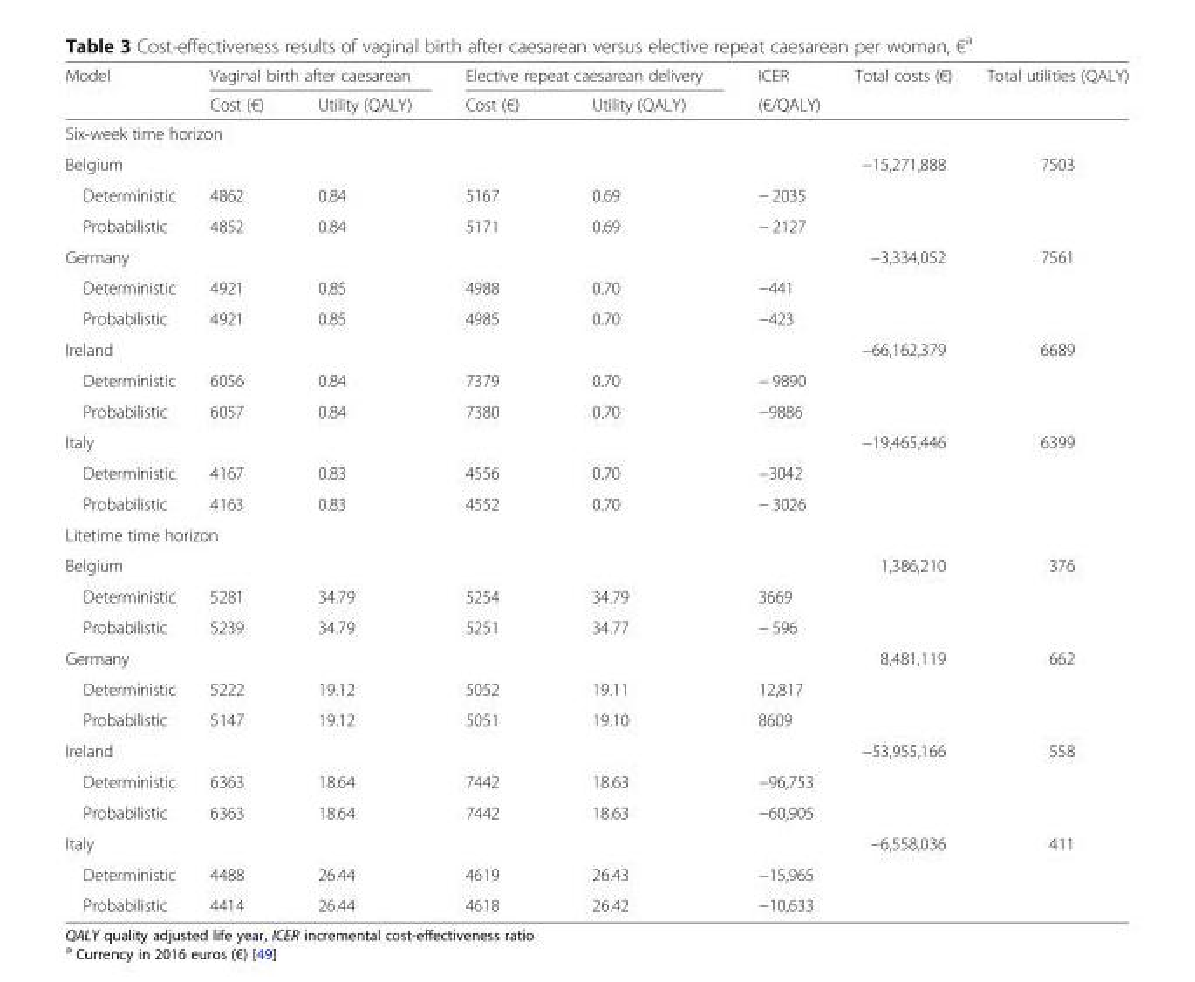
<table><thead><tr><td rowspan="2">Model</td><td colspan="2">Vaginal birth after caesarean</td><td colspan="2">Elective repeat caesarean delivery</td><td rowspan="2">ICER (€/QALY)</td><td rowspan="2">Total costs (€)</td><td rowspan="2">Total utilities (QALY)</td></tr><tr><td>Cost (€)</td><td>Utility (QALY)</td><td>Cost (€)</td><td>Utility (QALY)</td></tr></thead><tbody><tr><td colspan="8">Six-week time horizon</td></tr><tr><td>Belgium</td><td></td><td></td><td></td><td></td><td></td><td>−15,271,888</td><td>7503</td></tr><tr><td>Deterministic</td><td>4862</td><td>0.84</td><td>5167</td><td>0.69</td><td>− 2035</td><td></td><td></td></tr><tr><td>Probabilistic</td><td>4852</td><td>0.84</td><td>5171</td><td>0.69</td><td>− 2127</td><td></td><td></td></tr><tr><td>Germany</td><td></td><td></td><td></td><td></td><td></td><td>−3,334,052</td><td>7561</td></tr><tr><td>Deterministic</td><td>4921</td><td>0.85</td><td>4988</td><td>0.70</td><td>−441</td><td></td><td></td></tr><tr><td>Probabilistic</td><td>4921</td><td>0.85</td><td>4985</td><td>0.70</td><td>−423</td><td></td><td></td></tr><tr><td>Ireland</td><td></td><td></td><td></td><td></td><td></td><td>−66,162,379</td><td>6689</td></tr><tr><td>Deterministic</td><td>6056</td><td>0.84</td><td>7379</td><td>0.70</td><td>− 9890</td><td></td><td></td></tr><tr><td>Probabilistic</td><td>6057</td><td>0.84</td><td>7380</td><td>0.70</td><td>−9886</td><td></td><td></td></tr><tr><td>Italy</td><td></td><td></td><td></td><td></td><td></td><td>−19,465,446</td><td>6399</td></tr><tr><td>Deterministic</td><td>4167</td><td>0.83</td><td>4556</td><td>0.70</td><td>−3042</td><td></td><td></td></tr><tr><td>Probabilistic</td><td>4163</td><td>0.83</td><td>4552</td><td>0.70</td><td>− 3026</td><td></td><td></td></tr><tr><td colspan="8">Litetime time horizon</td></tr><tr><td>Belgium</td><td></td><td></td><td></td><td></td><td></td><td>1,386,210</td><td>376</td></tr><tr><td>Deterministic</td><td>5281</td><td>34.79</td><td>5254</td><td>34.79</td><td>3669</td><td></td><td></td></tr><tr><td>Probabilistic</td><td>5239</td><td>34.79</td><td>5251</td><td>34.77</td><td>− 596</td><td></td><td></td></tr><tr><td>Germany</td><td></td><td></td><td></td><td></td><td></td><td>8,481,119</td><td>662</td></tr><tr><td>Deterministic</td><td>5222</td><td>19.12</td><td>5052</td><td>19.11</td><td>12,817</td><td></td><td></td></tr><tr><td>Probabilistic</td><td>5147</td><td>19.12</td><td>5051</td><td>19.10</td><td>8609</td><td></td><td></td></tr><tr><td>Ireland</td><td></td><td></td><td></td><td></td><td></td><td>−53,955,166</td><td>558</td></tr><tr><td>Deterministic</td><td>6363</td><td>18.64</td><td>7442</td><td>18.63</td><td>−96,753</td><td></td><td></td></tr><tr><td>Probabilistic</td><td>6363</td><td>18.64</td><td>7442</td><td>18.63</td><td>−60,905</td><td></td><td></td></tr><tr><td>Italy</td><td></td><td></td><td></td><td></td><td></td><td>−6,558,036</td><td>411</td></tr><tr><td>Deterministic</td><td>4488</td><td>26.44</td><td>4619</td><td>26.43</td><td>−15,965</td><td></td><td></td></tr><tr><td>Probabilistic</td><td>4414</td><td>26.44</td><td>4618</td><td>26.42</td><td>−10,633</td><td></td><td></td></tr></tbody></table>